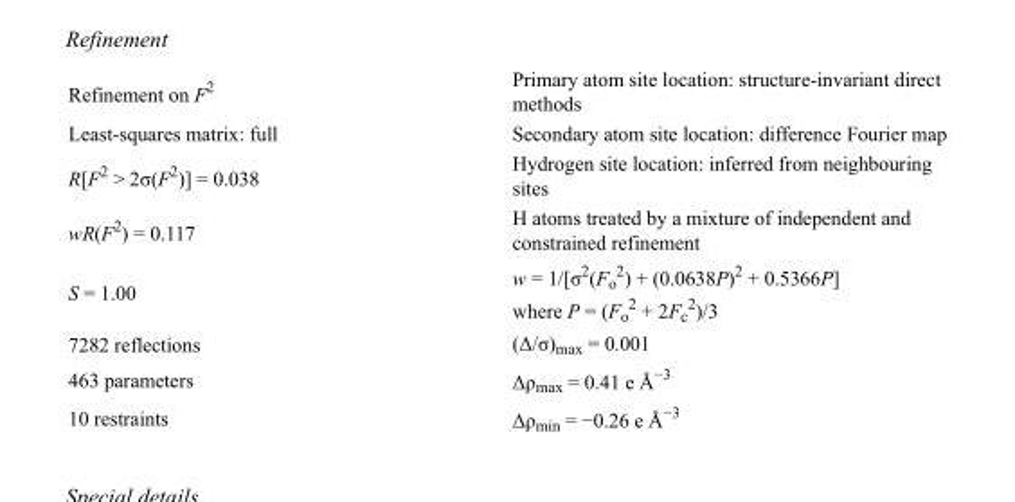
<table><tbody><tr><td>Refinement on F<sup>2</sup></td><td>Primary atom site location: structure-invariant direct methods</td></tr><tr><td>Least-squares matrix: full</td><td>Secondary atom site location: difference Fourier map</td></tr><tr><td>R[F<sup>2</sup> &gt; 2σ(F<sup>2</sup>)] = 0.038</td><td>Hydrogen site location: inferred from neighbouring sites</td></tr><tr><td>wR(F<sup>2</sup>) = 0.117</td><td>H atoms treated by a mixture of independent and constrained refinement</td></tr><tr><td>S = 1.00</td><td>w = 1/[σ<sup>2</sup>(F<sub>o</sub> <sup>2</sup>) + (0.0638P)<sup>2</sup> + 0.5366P] where P = (F<sub>o</sub> <sup>2</sup> + 2F<sub>c</sub> <sup>2</sup>)/3</td></tr><tr><td>7282 reflections</td><td>(Δ/σ)<sub>max</sub> = 0.001</td></tr><tr><td>463 parameters</td><td>Δρ<sub>max</sub> = 0.41 e Å<sup>−3</sup></td></tr><tr><td>10 restraints</td><td>Δρ<sub>min</sub> = −0.26 e Å<sup>−3</sup></td></tr></tbody></table>